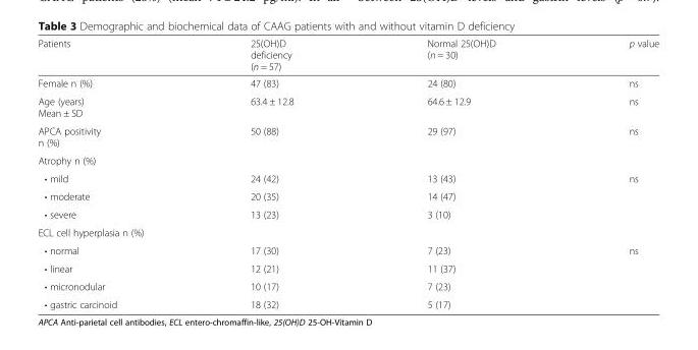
<table><thead><tr><td>Patients</td><td>25(OH)D deficiency (n = 57)</td><td>Normal 25(OH)D (n = 30)</td><td>p value</td></tr></thead><tbody><tr><td>Female n (%)</td><td>47 (83)</td><td>24 (80)</td><td>ns</td></tr><tr><td>Age (years) Mean ± SD</td><td>63.4 ± 12.8</td><td>64.6 ± 12.9</td><td>ns</td></tr><tr><td>APCA positivity n (%)</td><td>50 (88)</td><td>29 (97)</td><td>ns</td></tr><tr><td colspan="4">Atrophy n (%)</td></tr><tr><td>• mild</td><td>24 (42)</td><td>13 (43)</td><td>ns</td></tr><tr><td>• moderate</td><td>20 (35)</td><td>14 (47)</td><td></td></tr><tr><td>• severe</td><td>13 (23)</td><td>3 (10)</td><td></td></tr><tr><td colspan="4">ECL cell hyperplasia n (%)</td></tr><tr><td>• normal</td><td>17 (30)</td><td>7 (23)</td><td>ns</td></tr><tr><td>• linear</td><td>12 (21)</td><td>11 (37)</td><td></td></tr><tr><td>• micronodular</td><td>10 (17)</td><td>7 (23)</td><td></td></tr><tr><td>• gastric carcinoid</td><td>18 (32)</td><td>5 (17)</td><td></td></tr></tbody></table>